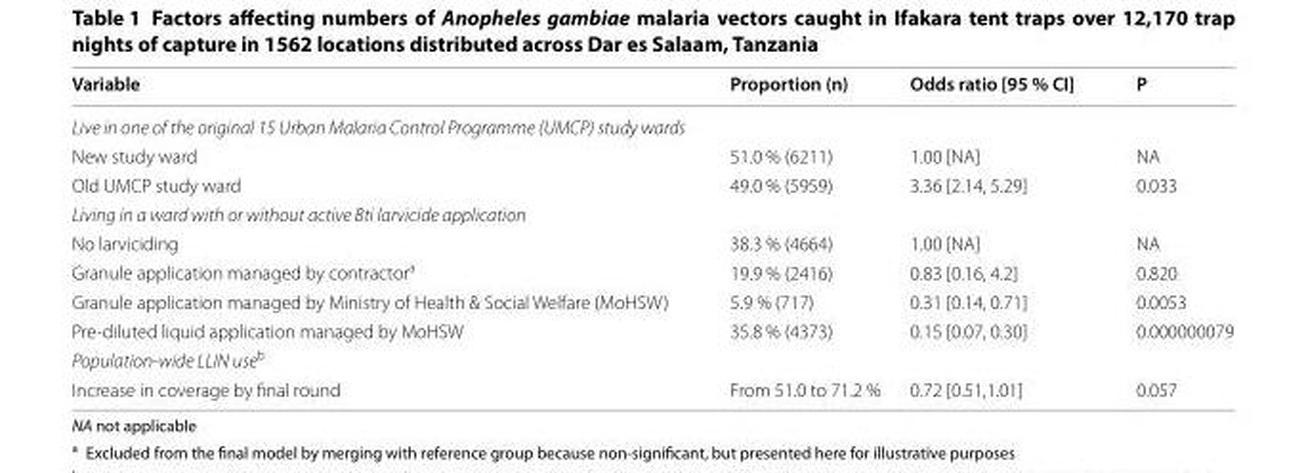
<table><thead><tr><td>Variable</td><td>Proportion (n)</td><td>Odds ratio [95 % CI]</td><td>P</td></tr></thead><tbody><tr><td colspan="4">Live in one of the original 15 Urban Malaria Control Programme (UMCP) study wards</td></tr><tr><td>New study ward</td><td>51.0 % (6211)</td><td>1.00 [NA]</td><td>NA</td></tr><tr><td>Old UMCP study ward</td><td>49.0 % (5959)</td><td>3.36 [2.14, 5.29]</td><td>0.033</td></tr><tr><td colspan="4">Living in a ward with or without active Bti larvicide application</td></tr><tr><td>No larviciding</td><td>38.3 % (4664)</td><td>1.00 [NA]</td><td>NA</td></tr><tr><td>Granule application managed by contractor<sup>a</sup></td><td>19.9 % (2416)</td><td>0.83 [0.16, 4.2]</td><td>0.820</td></tr><tr><td>Granule application managed by Ministry of Health &amp; Social Welfare (MoHSW)</td><td>5.9 % (717)</td><td>0.31 [0.14, 0.71]</td><td>0.0053</td></tr><tr><td>Pre-diluted liquid application managed by MoHSW</td><td>35.8 % (4373)</td><td>0.15 [0.07, 0.30]</td><td>0.000000079</td></tr><tr><td colspan="4">Population-wide LLIN use<sup>b</sup></td></tr><tr><td>Increase in coverage by final round</td><td>From 51.0 to 71.2 %</td><td>0.72 [0.51,1.01]</td><td>0.057</td></tr></tbody></table>